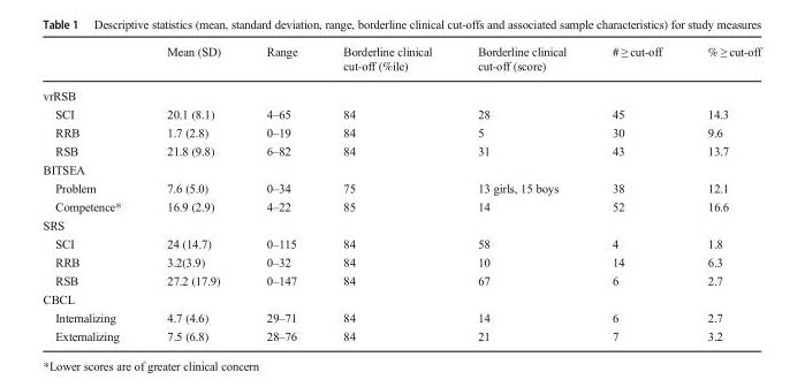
<table><thead><tr><td></td><td>Mean (SD)</td><td>Range</td><td>Borderline clinical cut-off (%ile)</td><td>Borderline clinical cut-off (score)</td><td># ≥ cut-off</td><td>% ≥ cut-off</td></tr></thead><tbody><tr><td colspan="7">vrRSB</td></tr><tr><td>SCI</td><td>20.1 (8.1)</td><td>4–65</td><td>84</td><td>28</td><td>45</td><td>14.3</td></tr><tr><td>RRB</td><td>1.7 (2.8)</td><td>0–19</td><td>84</td><td>5</td><td>30</td><td>9.6</td></tr><tr><td>RSB</td><td>21.8 (9.8)</td><td>6–82</td><td>84</td><td>31</td><td>43</td><td>13.7</td></tr><tr><td colspan="7">BITSEA</td></tr><tr><td>Problem</td><td>7.6 (5.0)</td><td>0–34</td><td>75</td><td>13 girls, 15 boys</td><td>38</td><td>12.1</td></tr><tr><td>Competence*</td><td>16.9 (2.9)</td><td>4–22</td><td>85</td><td>14</td><td>52</td><td>16.6</td></tr><tr><td colspan="7">SRS</td></tr><tr><td>SCI</td><td>24 (14.7)</td><td>0–115</td><td>84</td><td>58</td><td>4</td><td>1.8</td></tr><tr><td>RRB</td><td>3.2(3.9)</td><td>0–32</td><td>84</td><td>10</td><td>14</td><td>6.3</td></tr><tr><td>RSB</td><td>27.2 (17.9)</td><td>0–147</td><td>84</td><td>67</td><td>6</td><td>2.7</td></tr><tr><td colspan="7">CBCL</td></tr><tr><td>Internalizing</td><td>4.7 (4.6)</td><td>29–71</td><td>84</td><td>14</td><td>6</td><td>2.7</td></tr><tr><td>Externalizing</td><td>7.5 (6.8)</td><td>28–76</td><td>84</td><td>21</td><td>7</td><td>3.2</td></tr></tbody></table>